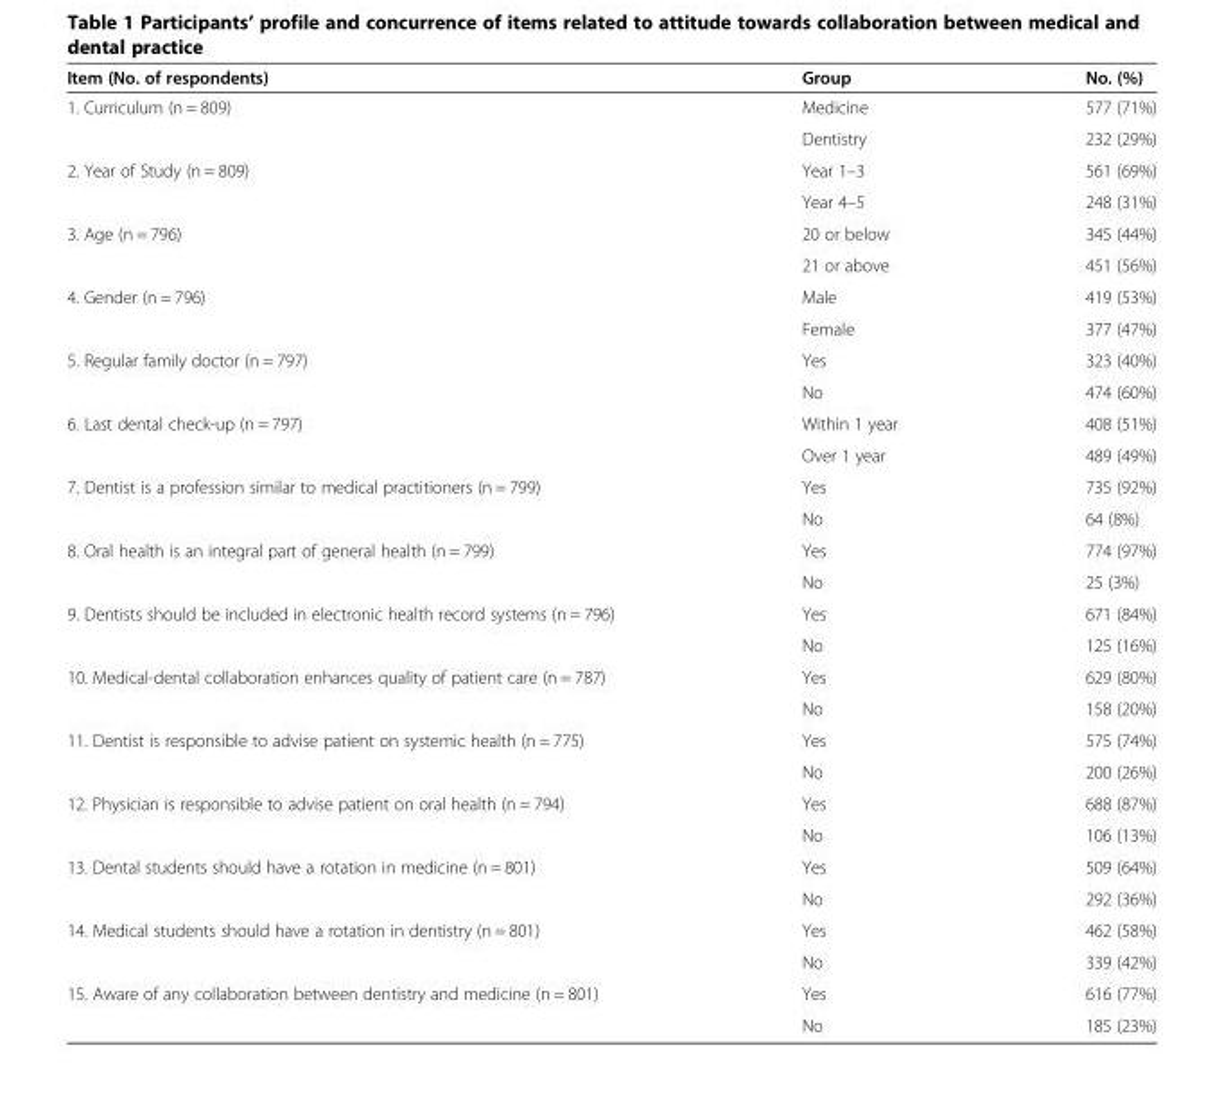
<table><thead><tr><td>Item (No. of respondents)</td><td>Group</td><td>No. (%)</td></tr></thead><tbody><tr><td rowspan="2">1. Curriculum (n = 809)</td><td>Medicine</td><td>577 (71%)</td></tr><tr><td>Dentistry</td><td>232 (29%)</td></tr><tr><td rowspan="2">2. Year of Study (n = 809)</td><td>Year 1–3</td><td>561 (69%)</td></tr><tr><td>Year 4–5</td><td>248 (31%)</td></tr><tr><td rowspan="2">3. Age (n = 796)</td><td>20 or below</td><td>345 (44%)</td></tr><tr><td>21 or above</td><td>451 (56%)</td></tr><tr><td rowspan="2">4. Gender (n = 796)</td><td>Male</td><td>419 (53%)</td></tr><tr><td>Female</td><td>377 (47%)</td></tr><tr><td rowspan="2">5. Regular family doctor (n = 797)</td><td>Yes</td><td>323 (40%)</td></tr><tr><td>No</td><td>474 (60%)</td></tr><tr><td rowspan="2">6. Last dental check-up (n = 797)</td><td>Within 1 year</td><td>408 (51%)</td></tr><tr><td>Over 1 year</td><td>489 (49%)</td></tr><tr><td rowspan="2">7. Dentist is a profession similar to medical practitioners (n = 799)</td><td>Yes</td><td>735 (92%)</td></tr><tr><td>No</td><td>64 (8%)</td></tr><tr><td rowspan="2">8. Oral health is an integral part of general health (n = 799)</td><td>Yes</td><td>774 (97%)</td></tr><tr><td>No</td><td>25 (3%)</td></tr><tr><td rowspan="2">9. Dentists should be included in electronic health record systems (n = 796)</td><td>Yes</td><td>671 (84%)</td></tr><tr><td>No</td><td>125 (16%)</td></tr><tr><td rowspan="2">10. Medical-dental collaboration enhances quality of patient care (n = 787)</td><td>Yes</td><td>629 (80%)</td></tr><tr><td>No</td><td>158 (20%)</td></tr><tr><td rowspan="2">11. Dentist is responsible to advise patient on systemic health (n = 775)</td><td>Yes</td><td>575 (74%)</td></tr><tr><td>No</td><td>200 (26%)</td></tr><tr><td rowspan="2">12. Physician is responsible to advise patient on oral health (n = 794)</td><td>Yes</td><td>688 (87%)</td></tr><tr><td>No</td><td>106 (13%)</td></tr><tr><td rowspan="2">13. Dental students should have a rotation in medicine (n = 801)</td><td>Yes</td><td>509 (64%)</td></tr><tr><td>No</td><td>292 (36%)</td></tr><tr><td rowspan="2">14. Medical students should have a rotation in dentistry (n = 801)</td><td>Yes</td><td>462 (58%)</td></tr><tr><td>No</td><td>339 (42%)</td></tr><tr><td rowspan="2">15. Aware of any collaboration between dentistry and medicine (n = 801)</td><td>Yes</td><td>616 (77%)</td></tr><tr><td>No</td><td>185 (23%)</td></tr></tbody></table>